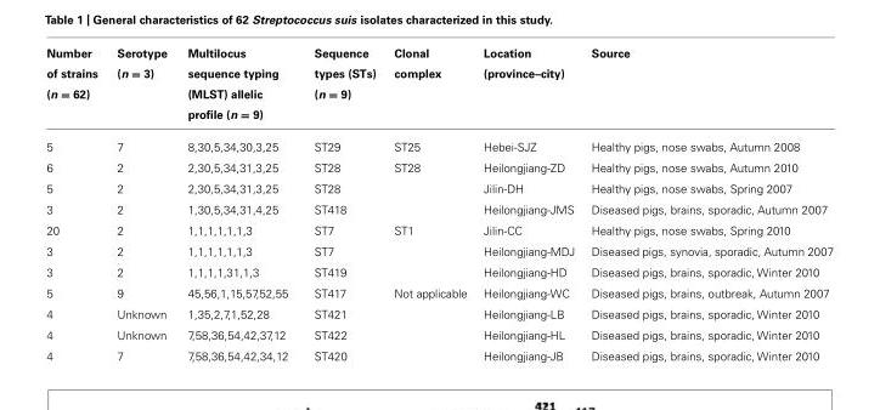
<table><thead><tr><td>Number of strains (n = 62)</td><td>Serotype (n = 3)</td><td>Multilocus sequence typing (MLST) allelic profile (n = 9)</td><td>Sequence types (STs) (n = 9)</td><td>Clonal complex</td><td>Location (province–city)</td><td>Source</td></tr></thead><tbody><tr><td>5</td><td>7</td><td>8,30,5,34,30,3,25</td><td>ST29</td><td>ST25</td><td>Hebei-SJZ</td><td>Healthy pigs, nose swabs, Autumn 2008</td></tr><tr><td>6</td><td>2</td><td>2,30,5,34,31,3,25</td><td>ST28</td><td>ST28</td><td>Heilongjiang-ZD</td><td>Healthy pigs, nose swabs, Autumn 2010</td></tr><tr><td>5</td><td>2</td><td>2,30,5,34,31,3,25</td><td>ST28</td><td></td><td>Jilin-DH</td><td>Healthy pigs, nose swabs, Spring 2007</td></tr><tr><td>3</td><td>2</td><td>1,30,5,34,31,4,25</td><td>ST418</td><td></td><td>Heilongjiang-JMS</td><td>Diseased pigs, brains, sporadic, Autumn 2007</td></tr><tr><td>20</td><td>2</td><td>1,1,1,1,1,1,3</td><td>ST7</td><td>ST1</td><td>Jilin-CC</td><td>Healthy pigs, nose swabs, Spring 2010</td></tr><tr><td>3</td><td>2</td><td>1,1,1,1,1,1,3</td><td>ST7</td><td></td><td>Heilongjiang-MDJ</td><td>Diseased pigs, synovia, sporadic, Autumn 2007</td></tr><tr><td>3</td><td>2</td><td>1,1,1,1,31,1,3</td><td>ST419</td><td></td><td>Heilongjiang-HD</td><td>Diseased pigs, brains, sporadic, Winter 2010</td></tr><tr><td>5</td><td>9</td><td>45,56,1,15,57,52,55</td><td>ST417</td><td>Not applicable</td><td>Heilongjiang-WC</td><td>Diseased pigs, brains, outbreak, Autumn 2007</td></tr><tr><td>4</td><td>Unknown</td><td>1,35,2,7,1,52,28</td><td>ST421</td><td></td><td>Heilongjiang-LB</td><td>Diseased pigs, brains, sporadic, Winter 2010</td></tr><tr><td>4</td><td>Unknown</td><td>7,58,36,54,42,37,12</td><td>ST422</td><td></td><td>Heilongjiang-HL</td><td>Diseased pigs, brains, sporadic, Winter 2010</td></tr><tr><td>4</td><td>7</td><td>7,58,36,54,42,34,12</td><td>ST420</td><td></td><td>Heilongjiang-JB</td><td>Diseased pigs, brains, sporadic, Winter 2010</td></tr></tbody></table>